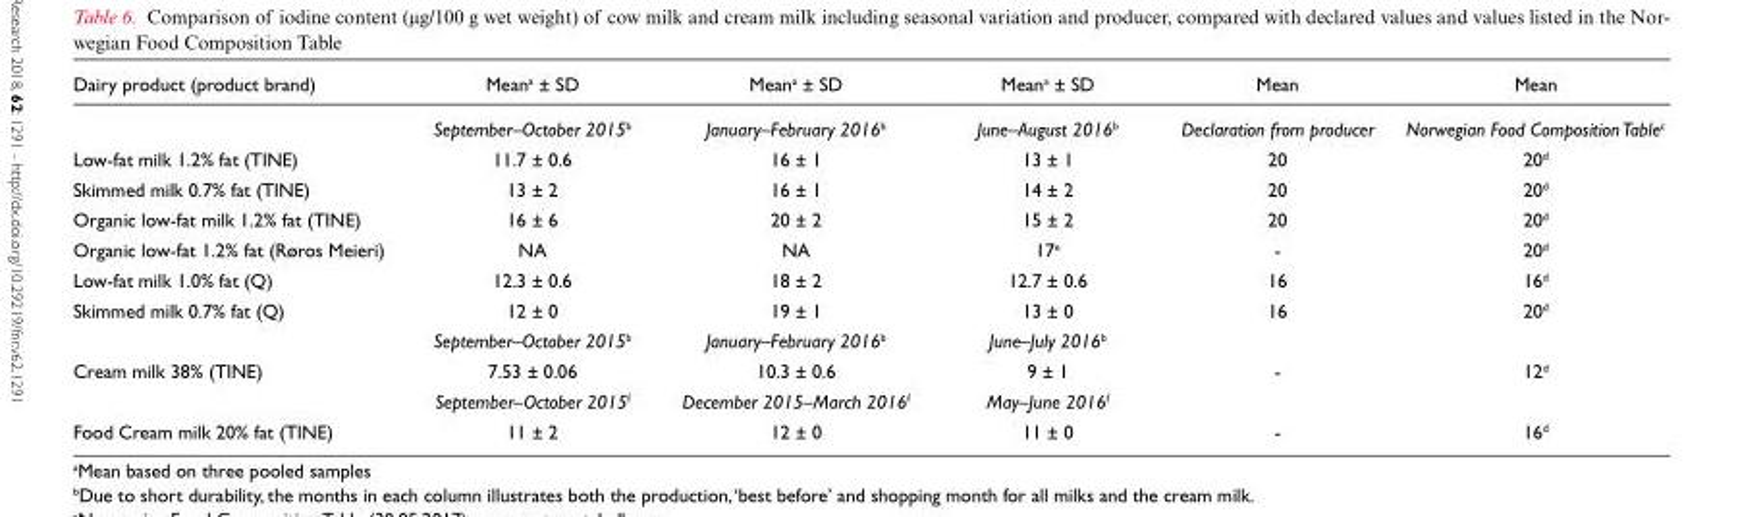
<table><thead><tr><td>Dairy product (product brand)</td><td>Mean<sup>a</sup> ± SD</td><td>Mean<sup>a</sup> ± SD</td><td>Mean<sup>a</sup> ± SD</td><td>Mean</td><td>Mean</td></tr></thead><tbody><tr><td></td><td>September–October 2015<sup>b</sup></td><td>January–February 2016<sup>b</sup></td><td>June–August 2016<sup>b</sup></td><td>Declaration from producer</td><td>Norwegian Food Composition Table<sup>c</sup></td></tr><tr><td>Low-fat milk 1.2% fat (TINE)</td><td>11.7 ± 0.6</td><td>16 ± 1</td><td>13 ± 1</td><td>20</td><td>20<sup>d</sup></td></tr><tr><td>Skimmed milk 0.7% fat (TINE)</td><td>13 ± 2</td><td>16 ± 1</td><td>14 ± 2</td><td>20</td><td>20<sup>d</sup></td></tr><tr><td>Organic low-fat milk 1.2% fat (TINE)</td><td>16 ± 6</td><td>20 ± 2</td><td>15 ± 2</td><td>20</td><td>20<sup>d</sup></td></tr><tr><td>Organic low-fat 1.2% fat (Røros Meieri)</td><td>NA</td><td>NA</td><td>17<sup>e</sup></td><td>-</td><td>20<sup>d</sup></td></tr><tr><td>Low-fat milk 1.0% fat (Q)</td><td>12.3 ± 0.6</td><td>18 ± 2</td><td>12.7 ± 0.6</td><td>16</td><td>16<sup>d</sup></td></tr><tr><td rowspan="2">Skimmed milk 0.7% fat (Q)</td><td>12 ± 0</td><td>19 ± 1</td><td>13 ± 0</td><td>16</td><td>20<sup>d</sup></td></tr><tr><td>September–October 2015<sup>b</sup></td><td>January–February 2016<sup>b</sup></td><td>June–July 2016<sup>b</sup></td><td></td><td></td></tr><tr><td rowspan="2">Cream milk 38% (TINE)</td><td>7.53 ± 0.06</td><td>10.3 ± 0.6</td><td>9 ± 1</td><td>-</td><td>12<sup>d</sup></td></tr><tr><td>September–October 2015<sup>f</sup></td><td>December 2015–March 2016<sup>f</sup></td><td>May–June 2016<sup>f</sup></td><td></td><td></td></tr><tr><td>Food Cream milk 20% fat (TINE)</td><td>11 ± 2</td><td>12 ± 0</td><td>11 ± 0</td><td>-</td><td>16<sup>d</sup></td></tr></tbody></table>